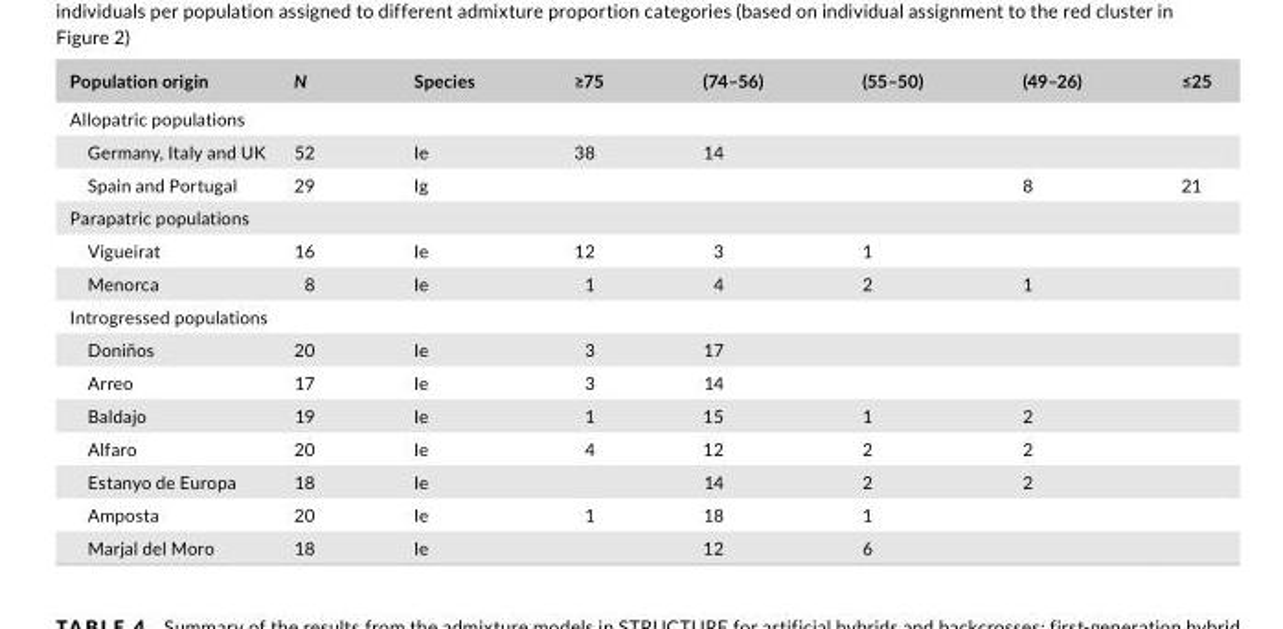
<table><thead><tr><td>Population origin</td><td>N</td><td>Species</td><td>≥75</td><td>(74–56)</td><td>(55–50)</td><td>(49–26)</td><td>≤25</td></tr></thead><tbody><tr><td colspan="8">Allopatric populations</td></tr><tr><td>Germany, Italy and UK</td><td>52</td><td>Ie</td><td>38</td><td>14</td><td></td><td></td><td></td></tr><tr><td>Spain and Portugal</td><td>29</td><td>Ig</td><td></td><td></td><td></td><td>8</td><td>21</td></tr><tr><td colspan="8">Parapatric populations</td></tr><tr><td>Vigueirat</td><td>16</td><td>Ie</td><td>12</td><td>3</td><td>1</td><td></td><td></td></tr><tr><td>Menorca</td><td>8</td><td>Ie</td><td>1</td><td>4</td><td>2</td><td>1</td><td></td></tr><tr><td colspan="8">Introgressed populations</td></tr><tr><td>Doniños</td><td>20</td><td>Ie</td><td>3</td><td>17</td><td></td><td></td><td></td></tr><tr><td>Arreo</td><td>17</td><td>Ie</td><td>3</td><td>14</td><td></td><td></td><td></td></tr><tr><td>Baldajo</td><td>19</td><td>Ie</td><td>1</td><td>15</td><td>1</td><td>2</td><td></td></tr><tr><td>Alfaro</td><td>20</td><td>Ie</td><td>4</td><td>12</td><td>2</td><td>2</td><td></td></tr><tr><td>Estanyo de Europa</td><td>18</td><td>Ie</td><td></td><td>14</td><td>2</td><td>2</td><td></td></tr><tr><td>Amposta</td><td>20</td><td>Ie</td><td>1</td><td>18</td><td>1</td><td></td><td></td></tr><tr><td>Marjal del Moro</td><td>18</td><td>Ie</td><td></td><td>12</td><td>6</td><td></td><td></td></tr></tbody></table>